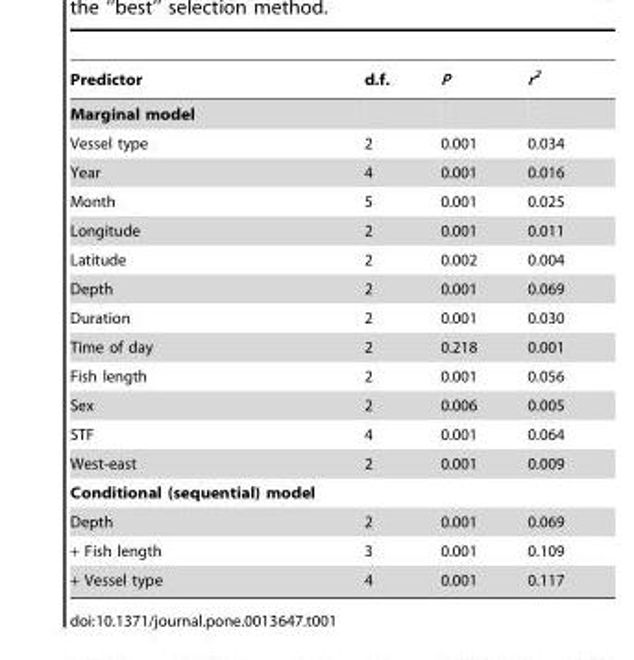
<table><thead><tr><td>Predictor</td><td>d.f.</td><td>P</td><td>r<sup>2</sup></td></tr></thead><tbody><tr><td colspan="4">Marginal model</td></tr><tr><td>Vessel type</td><td>2</td><td>0.001</td><td>0.034</td></tr><tr><td>Year</td><td>4</td><td>0.001</td><td>0.016</td></tr><tr><td>Month</td><td>5</td><td>0.001</td><td>0.025</td></tr><tr><td>Longitude</td><td>2</td><td>0.001</td><td>0.011</td></tr><tr><td>Latitude</td><td>2</td><td>0.002</td><td>0.004</td></tr><tr><td>Depth</td><td>2</td><td>0.001</td><td>0.069</td></tr><tr><td>Duration</td><td>2</td><td>0.001</td><td>0.030</td></tr><tr><td>Time of day</td><td>2</td><td>0.218</td><td>0.001</td></tr><tr><td>Fish length</td><td>2</td><td>0.001</td><td>0.056</td></tr><tr><td>Sex</td><td>2</td><td>0.006</td><td>0.005</td></tr><tr><td>STF</td><td>4</td><td>0.001</td><td>0.064</td></tr><tr><td>West-east</td><td>2</td><td>0.001</td><td>0.009</td></tr><tr><td colspan="4">Conditional (sequential) model</td></tr><tr><td>Depth</td><td>2</td><td>0.001</td><td>0.069</td></tr><tr><td>+ Fish length</td><td>3</td><td>0.001</td><td>0.109</td></tr><tr><td>+ Vessel type</td><td>4</td><td>0.001</td><td>0.117</td></tr></tbody></table>